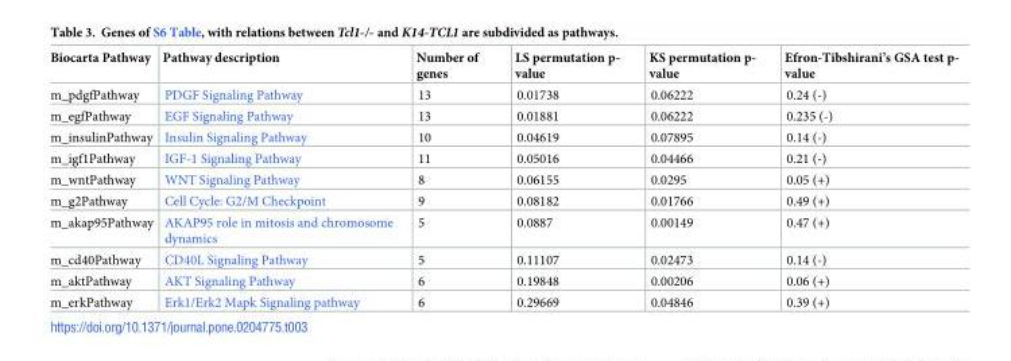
<table><thead><tr><td>Biocarta Pathway</td><td>Pathway description</td><td>Number of genes</td><td>LS permutation p- value</td><td>KS permutation p- value</td><td>Efron-Tibshirani’s GSA test p- value</td></tr></thead><tbody><tr><td>m_pdgfPathway</td><td>PDGF Signaling Pathway</td><td>13</td><td>0.01738</td><td>0.06222</td><td>0.24 (-)</td></tr><tr><td>m_egfPathway</td><td>EGF Signaling Pathway</td><td>13</td><td>0.01881</td><td>0.06222</td><td>0.235 (-)</td></tr><tr><td>m_insulinPathway</td><td>Insulin Signaling Pathway</td><td>10</td><td>0.04619</td><td>0.07895</td><td>0.14 (-)</td></tr><tr><td>m_igf1Pathway</td><td>IGF-1 Signaling Pathway</td><td>11</td><td>0.05016</td><td>0.04466</td><td>0.21 (-)</td></tr><tr><td>m_wntPathway</td><td>WNT Signaling Pathway</td><td>8</td><td>0.06155</td><td>0.0295</td><td>0.05 (+)</td></tr><tr><td>m_g2Pathway</td><td>Cell Cycle: G2/M Checkpoint</td><td>9</td><td>0.08182</td><td>0.01766</td><td>0.49 (+)</td></tr><tr><td>m_akap95Pathway</td><td>AKAP95 role in mitosis and chromosome dynamics</td><td>5</td><td>0.0887</td><td>0.00149</td><td>0.47 (+)</td></tr><tr><td>m_cd40Pathway</td><td>CD40L Signaling Pathway</td><td>5</td><td>0.11107</td><td>0.02473</td><td>0.14 (-)</td></tr><tr><td>m_aktPathway</td><td>AKT Signaling Pathway</td><td>6</td><td>0.19848</td><td>0.00206</td><td>0.06 (+)</td></tr><tr><td>m_erkPathway</td><td>Erk1/Erk2 Mapk Signaling pathway</td><td>6</td><td>0.29669</td><td>0.04846</td><td>0.39 (+)</td></tr></tbody></table>